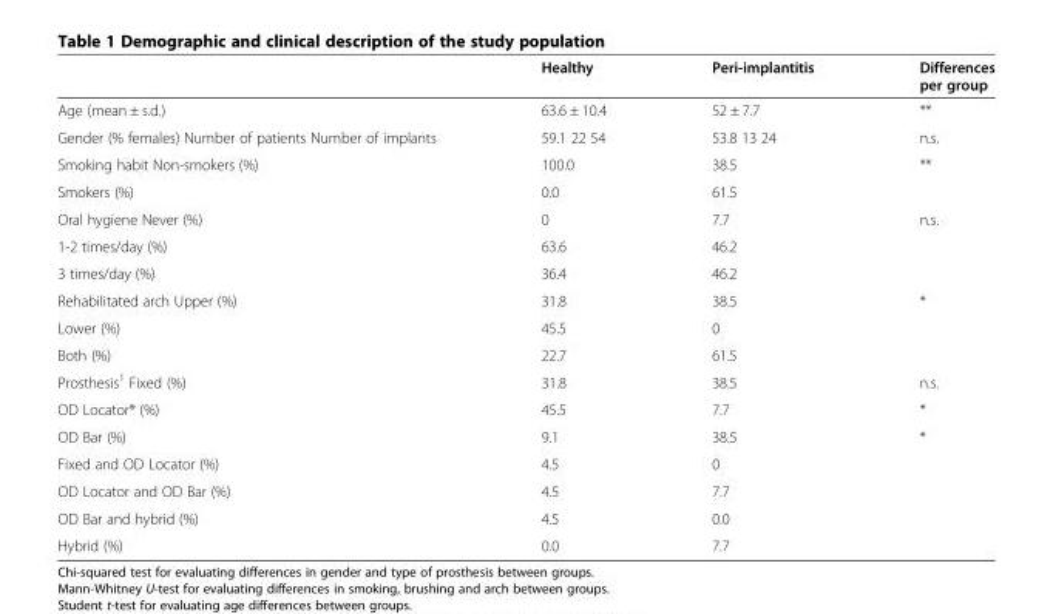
<table><thead><tr><td></td><td>Healthy</td><td>Peri-implantitis</td><td>Differences per group</td></tr></thead><tbody><tr><td>Age (mean ± s.d.)</td><td>63.6 ± 10.4</td><td>52 ± 7.7</td><td>**</td></tr><tr><td>Gender (% females) Number of patients Number of implants</td><td>59.1 22 54</td><td>53.8 13 24</td><td>n.s.</td></tr><tr><td>Smoking habit Non-smokers (%)</td><td>100.0</td><td>38.5</td><td>**</td></tr><tr><td>Smokers (%)</td><td>0.0</td><td>61.5</td><td></td></tr><tr><td>Oral hygiene Never (%)</td><td>0</td><td>7.7</td><td>n.s.</td></tr><tr><td>1-2 times/day (%)</td><td>63.6</td><td>46.2</td><td></td></tr><tr><td>3 times/day (%)</td><td>36.4</td><td>46.2</td><td></td></tr><tr><td>Rehabilitated arch Upper (%)</td><td>31.8</td><td>38.5</td><td>*</td></tr><tr><td>Lower (%)</td><td>45.5</td><td>0</td><td></td></tr><tr><td>Both (%)</td><td>22.7</td><td>61.5</td><td></td></tr><tr><td>Prosthesis<sup>1</sup> Fixed (%)</td><td>31.8</td><td>38.5</td><td>n.s.</td></tr><tr><td>OD Locator® (%)</td><td>45.5</td><td>7.7</td><td>*</td></tr><tr><td>OD Bar (%)</td><td>9.1</td><td>38.5</td><td>*</td></tr><tr><td>Fixed and OD Locator (%)</td><td>4.5</td><td>0</td><td></td></tr><tr><td>OD Locator and OD Bar (%)</td><td>4.5</td><td>7.7</td><td></td></tr><tr><td>OD Bar and hybrid (%)</td><td>4.5</td><td>0.0</td><td></td></tr><tr><td>Hybrid (%)</td><td>0.0</td><td>7.7</td><td></td></tr></tbody></table>